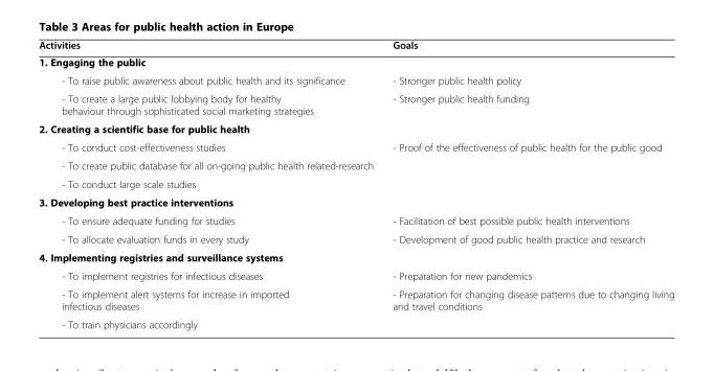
<table><thead><tr><td>Activities</td><td>Goals</td></tr></thead><tbody><tr><td colspan="2">1. Engaging the public</td></tr><tr><td>- To raise public awareness about public health and its significance</td><td>- Stronger public health policy</td></tr><tr><td>- To create a large public lobbying body for healthy behaviour through sophisticated social marketing strategies</td><td>- Stronger public health funding</td></tr><tr><td colspan="2">2. Creating a scientific base for public health</td></tr><tr><td>- To conduct cost-effectiveness studies</td><td>- Proof of the effectiveness of public health for the public good</td></tr><tr><td colspan="2">- To create public database for all on-going public health related-research</td></tr><tr><td colspan="2">- To conduct large scale studies</td></tr><tr><td colspan="2">3. Developing best practice interventions</td></tr><tr><td>- To ensure adequate funding for studies</td><td>- Facilitation of best possible public health interventions</td></tr><tr><td>- To allocate evaluation funds in every study</td><td>- Development of good public health practice and research</td></tr><tr><td colspan="2">4. Implementing registries and surveillance systems</td></tr><tr><td>- To implement registries for infectious diseases</td><td>- Preparation for new pandemics</td></tr><tr><td>- To implement alert systems for increase in imported infectious diseases</td><td>- Preparation for changing disease patterns due to changing living and travel conditions</td></tr><tr><td>- To train physicians accordingly</td><td></td></tr></tbody></table>